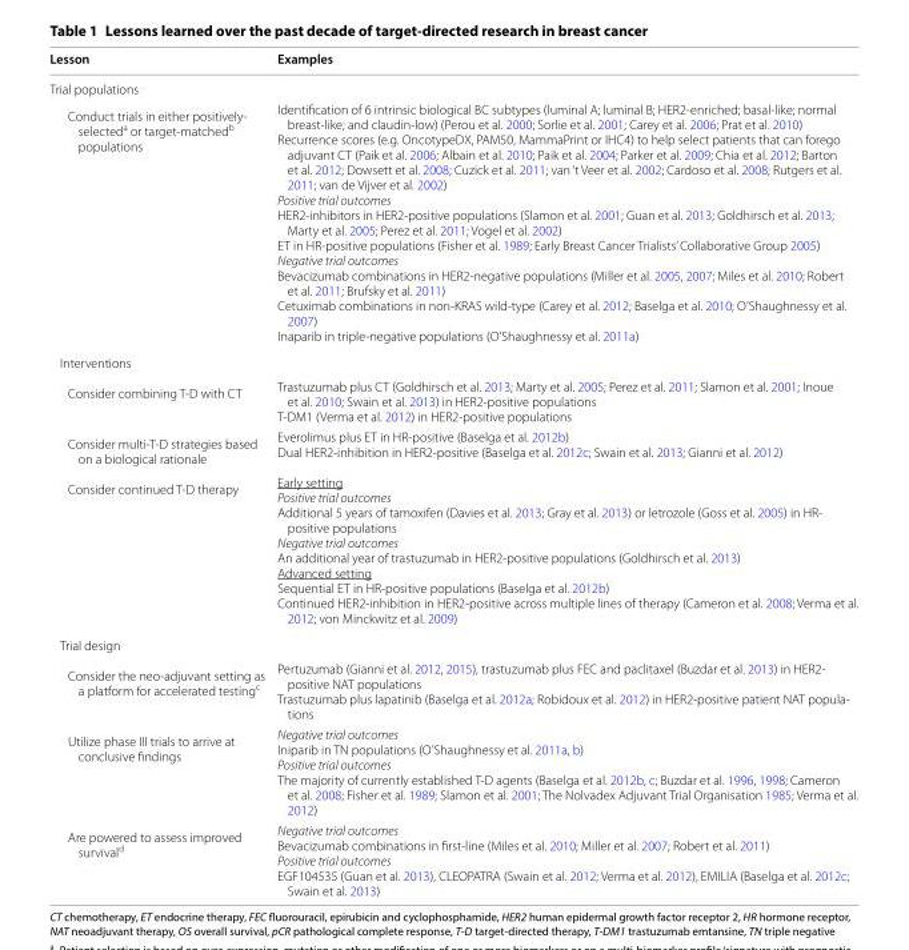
<table><thead><tr><td>Lesson</td><td>Examples</td></tr></thead><tbody><tr><td colspan="2">Trial populations</td></tr><tr><td>Conduct trials in either positively‑ selected<sup>a</sup> or target‑matched<sup>b</sup> populations</td><td>Identification of 6 intrinsic biological BC subtypes (luminal A; luminal B; HER2‑enriched; basal‑like; normal breast‑like; and claudin‑low) (Perou et al. 2000; Sorlie et al. 2001; Carey et al. 2006; Prat et al. 2010) Recurrence scores (e.g. OncotypeDX, PAM50, MammaPrint or IHC4) to help select patients that can forego adjuvant CT (Paik et al. 2006; Albain et al. 2010; Paik et al. 2004; Parker et al. 2009; Chia et al. 2012; Barton et al. 2012; Dowsett et al. 2008; Cuzick et al. 2011; van ‘t Veer et al. 2002; Cardoso et al. 2008; Rutgers et al. 2011; van de Vijver et al. 2002) Positive trial outcomes HER2‑inhibitors in HER2‑positive populations (Slamon et al. 2001; Guan et al. 2013; Goldhirsch et al. 2013; Marty et al. 2005; Perez et al. 2011; Vogel et al. 2002) ET in HR‑positive populations (Fisher et al. 1989; Early Breast Cancer Trialists’ Collaborative Group 2005) Negative trial outcomes Bevacizumab combinations in HER2‑negative populations (Miller et al. 2005, 2007; Miles et al. 2010; Robert et al. 2011; Brufsky et al. 2011) Cetuximab combinations in non‑KRAS wild‑type (Carey et al. 2012; Baselga et al. 2010; O’Shaughnessy et al. 2007) Inaparib in triple‑negative populations (O’Shaughnessy et al. 2011a)</td></tr><tr><td colspan="2">Interventions</td></tr><tr><td>Consider combining T‑D with CT</td><td>Trastuzumab plus CT (Goldhirsch et al. 2013; Marty et al. 2005; Perez et al. 2011; Slamon et al. 2001; Inoue et al. 2010; Swain et al. 2013) in HER2‑positive populations T‑DM1 (Verma et al. 2012) in HER2‑positive populations</td></tr><tr><td>Consider multi‑T‑D strategies based on a biological rationale</td><td>Everolimus plus ET in HR‑positive (Baselga et al. 2012b) Dual HER2‑inhibition in HER2‑positive (Baselga et al. 2012c; Swain et al. 2013; Gianni et al. 2012)</td></tr><tr><td>Consider continued T‑D therapy</td><td>Early setting Positive trial outcomes Additional 5 years of tamoxifen (Davies et al. 2013; Gray et al. 2013) or letrozole (Goss et al. 2005) in HR‑ positive populations Negative trial outcomes An additional year of trastuzumab in HER2‑positive populations (Goldhirsch et al. 2013) Advanced setting Sequential ET in HR‑positive populations (Baselga et al. 2012b) Continued HER2‑inhibition in HER2‑positive across multiple lines of therapy (Cameron et al. 2008; Verma et al. 2012; von Minckwitz et al. 2009)</td></tr><tr><td colspan="2">Trial design</td></tr><tr><td>Consider the neo‑adjuvant setting as a platform for accelerated testing<sup>c</sup></td><td>Pertuzumab (Gianni et al. 2012, 2015), trastuzumab plus FEC and paclitaxel (Buzdar et al. 2013) in HER2‑ positive NAT populations Trastuzumab plus lapatinib (Baselga et al. 2012a; Robidoux et al. 2012) in HER2‑positive patient NAT popula‑ tions</td></tr><tr><td>Utilize phase III trials to arrive at conclusive findings</td><td>Negative trial outcomes Iniparib in TN populations (O’Shaughnessy et al. 2011a, b) Positive trial outcomes The majority of currently established T‑D agents (Baselga et al. 2012b, c; Buzdar et al. 1996, 1998; Cameron et al. 2008; Fisher et al. 1989; Slamon et al. 2001; The Nolvadex Adjuvant Trial Organisation 1985; Verma et al. 2012)</td></tr><tr><td>Are powered to assess improved survival<sup>d</sup></td><td>Negative trial outcomes Bevacizumab combinations in first‑line (Miles et al. 2010; Miller et al. 2007; Robert et al. 2011) Positive trial outcomes EGF104535 (Guan et al. 2013), CLEOPATRA (Swain et al. 2012; Verma et al. 2012), EMILIA (Baselga et al. 2012c; Swain et al. 2013)</td></tr></tbody></table>